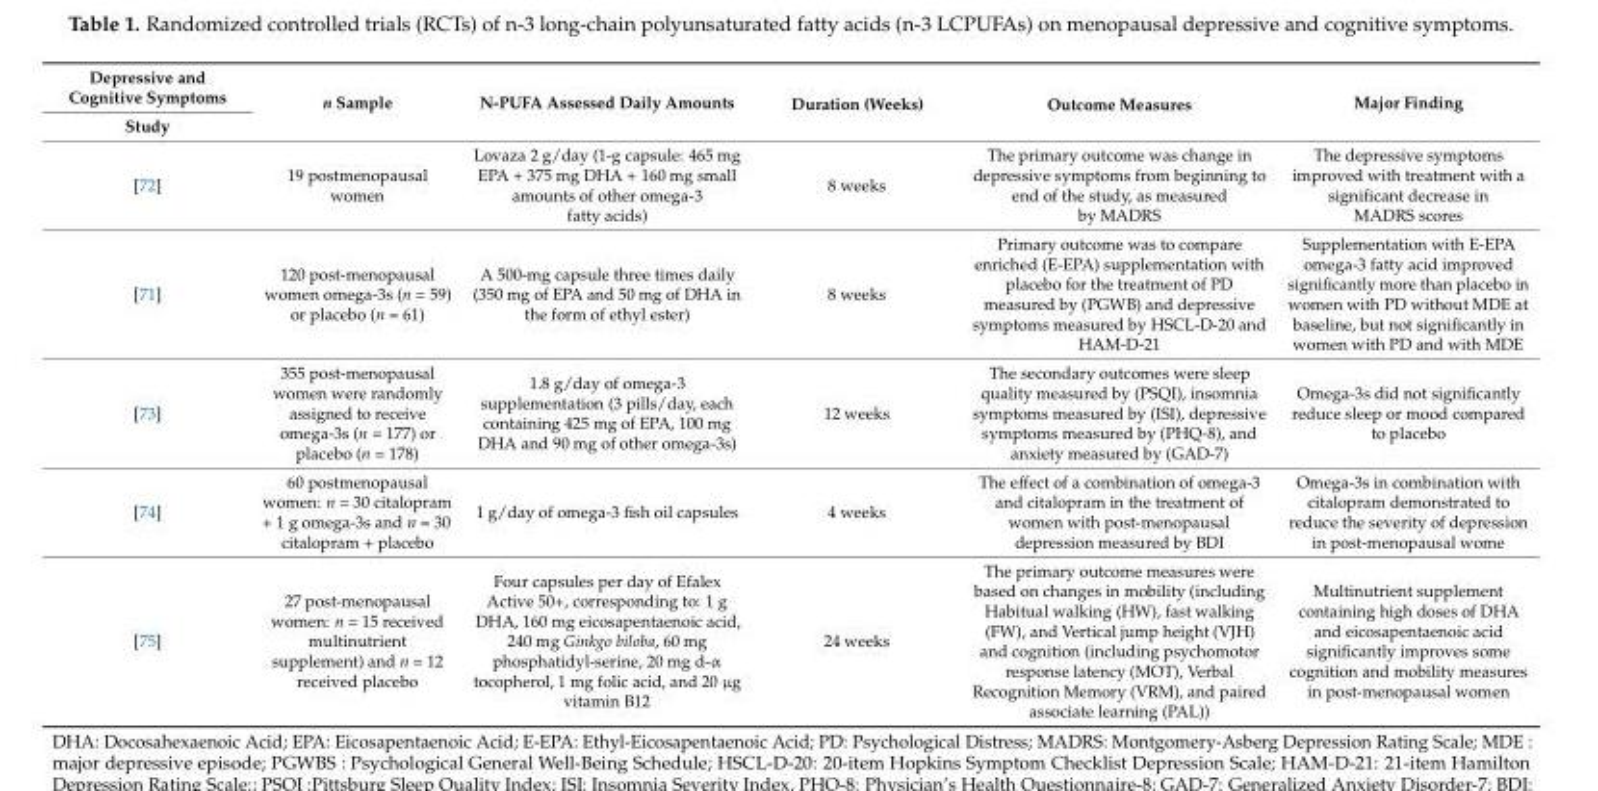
<table><thead><tr><td rowspan="2">Depressive and Cognitive Symptoms Study</td><td rowspan="2">n Sample</td><td rowspan="2">N-PUFA Assessed Daily Amounts</td><td rowspan="2">Duration (Weeks)</td><td rowspan="2">Outcome Measures</td><td rowspan="2">Major Finding</td></tr><tr></tr></thead><tbody><tr><td>[72]</td><td>19 postmenopausal women</td><td>Lovaza 2 g/day (1-g capsule: 465 mg EPA + 375 mg DHA + 160 mg small amounts of other omega-3 fatty acids)</td><td>8 weeks</td><td>The primary outcome was change in depressive symptoms from beginning to end of the study, as measured by MADRS</td><td>The depressive symptoms improved with treatment with a significant decrease in MADRS scores</td></tr><tr><td>[71]</td><td>120 post-menopausal women omega-3s (n = 59) or placebo (n = 61)</td><td>A 500-mg capsule three times daily (350 mg of EPA and 50 mg of DHA in the form of ethyl ester)</td><td>8 weeks</td><td>Primary outcome was to compare enriched (E-EPA) supplementation with placebo for the treatment of PD measured by (PGWB) and depressive symptoms measured by HSCL-D-20 and HAM-D-21</td><td>Supplementation with E-EPA omega-3 fatty acid improved significantly more than placebo in women with PD without MDE at baseline, but not significantly in women with PD and with MDE</td></tr><tr><td>[73]</td><td>355 post-menopausal women were randomly assigned to receive omega-3s (n = 177) or placebo (n = 178)</td><td>1.8 g/day of omega-3 supplementation (3 pills/day, each containing 425 mg of EPA, 100 mg DHA and 90 mg of other omega-3s)</td><td>12 weeks</td><td>The secondary outcomes were sleep quality measured by (PSQI), insomnia symptoms measured by (ISI), depressive symptoms measured by (PHQ-8), and anxiety measured by (GAD-7)</td><td>Omega-3s did not significantly reduce sleep or mood compared to placebo</td></tr><tr><td>[74]</td><td>60 postmenopausal women: n = 30 citalopram + 1 g omega-3s and n = 30 citalopram + placebo</td><td>1 g/day of omega-3 fish oil capsules</td><td>4 weeks</td><td>The effect of a combination of omega-3 and citalopram in the treatment of women with post-menopausal depression measured by BDI</td><td>Omega-3s in combination with citalopram demonstrated to reduce the severity of depression in post-menopausal wome</td></tr><tr><td>[75]</td><td>27 post-menopausal women: n = 15 received multinutrient supplement) and n = 12 received placebo</td><td>Four capsules per day of Efalex Active 50+, corresponding to: 1 g DHA, 160 mg eicosapentaenoic acid, 240 mg Ginkgo biloba, 60 mg phosphatidyl-serine, 20 mg d-α tocopherol, 1 mg folic acid, and 20 µg vitamin B12</td><td>24 weeks</td><td>The primary outcome measures were based on changes in mobility (including Habitual walking (HW), fast walking (FW), and Vertical jump height (VJH) and cognition (including psychomotor response latency (MOT), Verbal Recognition Memory (VRM), and paired associate learning (PAL))</td><td>Multinutrient supplement containing high doses of DHA and eicosapentaenoic acid significantly improves some cognition and mobility measures in post-menopausal women</td></tr></tbody></table>